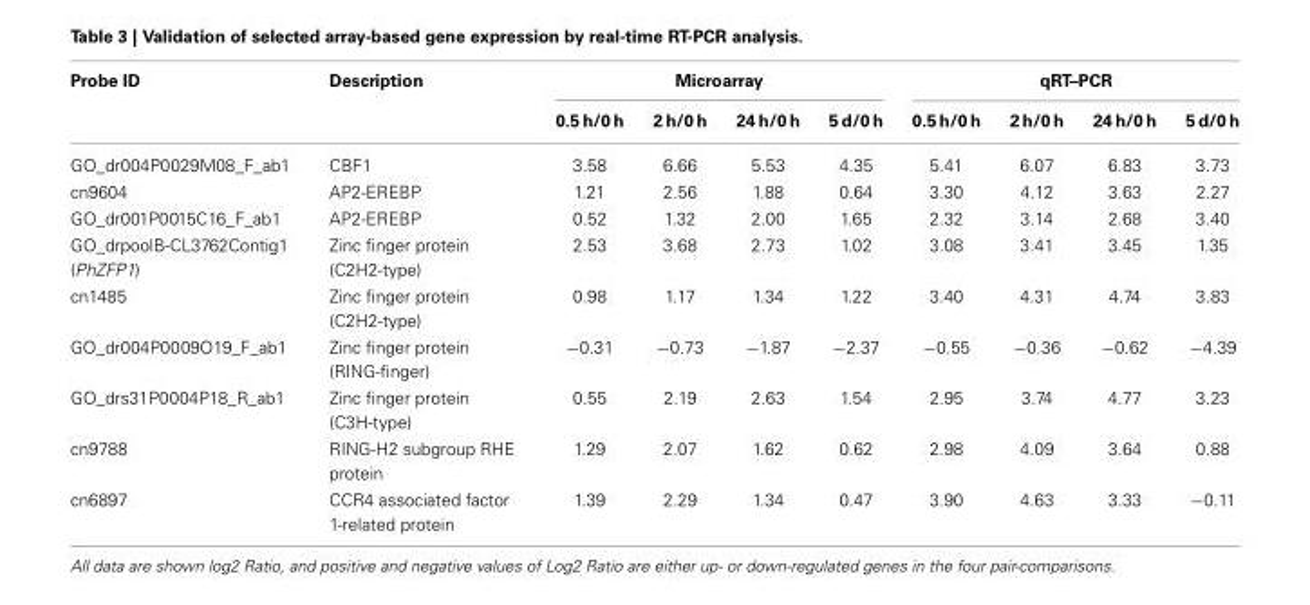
<table><thead><tr><td rowspan="2">Probe ID</td><td rowspan="2">Description</td><td colspan="4">Microarray</td><td colspan="4">qRT–PCR</td></tr><tr><td>0.5 h/0 h</td><td>2 h/0 h</td><td>24 h/0 h</td><td>5 d/0 h</td><td>0.5 h/0 h</td><td>2 h/0 h</td><td>24 h/0 h</td><td>5 d/0 h</td></tr></thead><tbody><tr><td>GO_dr004P0029M08_F_ab1</td><td>CBF1</td><td>3.58</td><td>6.66</td><td>5.53</td><td>4.35</td><td>5.41</td><td>6.07</td><td>6.83</td><td>3.73</td></tr><tr><td>cn9604</td><td>AP2-EREBP</td><td>1.21</td><td>2.56</td><td>1.88</td><td>0.64</td><td>3.30</td><td>4.12</td><td>3.63</td><td>2.27</td></tr><tr><td>GO_dr001P0015C16_F_ab1</td><td>AP2-EREBP</td><td>0.52</td><td>1.32</td><td>2.00</td><td>1.65</td><td>2.32</td><td>3.14</td><td>2.68</td><td>3.40</td></tr><tr><td>GO_drpoolB-CL3762Contig1 (PhZFP1)</td><td>Zinc finger protein (C2H2-type)</td><td>2.53</td><td>3.68</td><td>2.73</td><td>1.02</td><td>3.08</td><td>3.41</td><td>3.45</td><td>1.35</td></tr><tr><td>cn1485</td><td>Zinc finger protein (C2H2-type)</td><td>0.98</td><td>1.17</td><td>1.34</td><td>1.22</td><td>3.40</td><td>4.31</td><td>4.74</td><td>3.83</td></tr><tr><td>GO_dr004P0009O19_F_ab1</td><td>Zinc finger protein (RING-finger)</td><td>−0.31</td><td>−0.73</td><td>−1.87</td><td>−2.37</td><td>−0.55</td><td>−0.36</td><td>−0.62</td><td>−4.39</td></tr><tr><td>GO_drs31P0004P18_R_ab1</td><td>Zinc finger protein (C3H-type)</td><td>0.55</td><td>2.19</td><td>2.63</td><td>1.54</td><td>2.95</td><td>3.74</td><td>4.77</td><td>3.23</td></tr><tr><td>cn9788</td><td>RING-H2 subgroup RHE protein</td><td>1.29</td><td>2.07</td><td>1.62</td><td>0.62</td><td>2.98</td><td>4.09</td><td>3.64</td><td>0.88</td></tr><tr><td>cn6897</td><td>CCR4 associated factor 1-related protein</td><td>1.39</td><td>2.29</td><td>1.34</td><td>0.47</td><td>3.90</td><td>4.63</td><td>3.33</td><td>−0.11</td></tr></tbody></table>